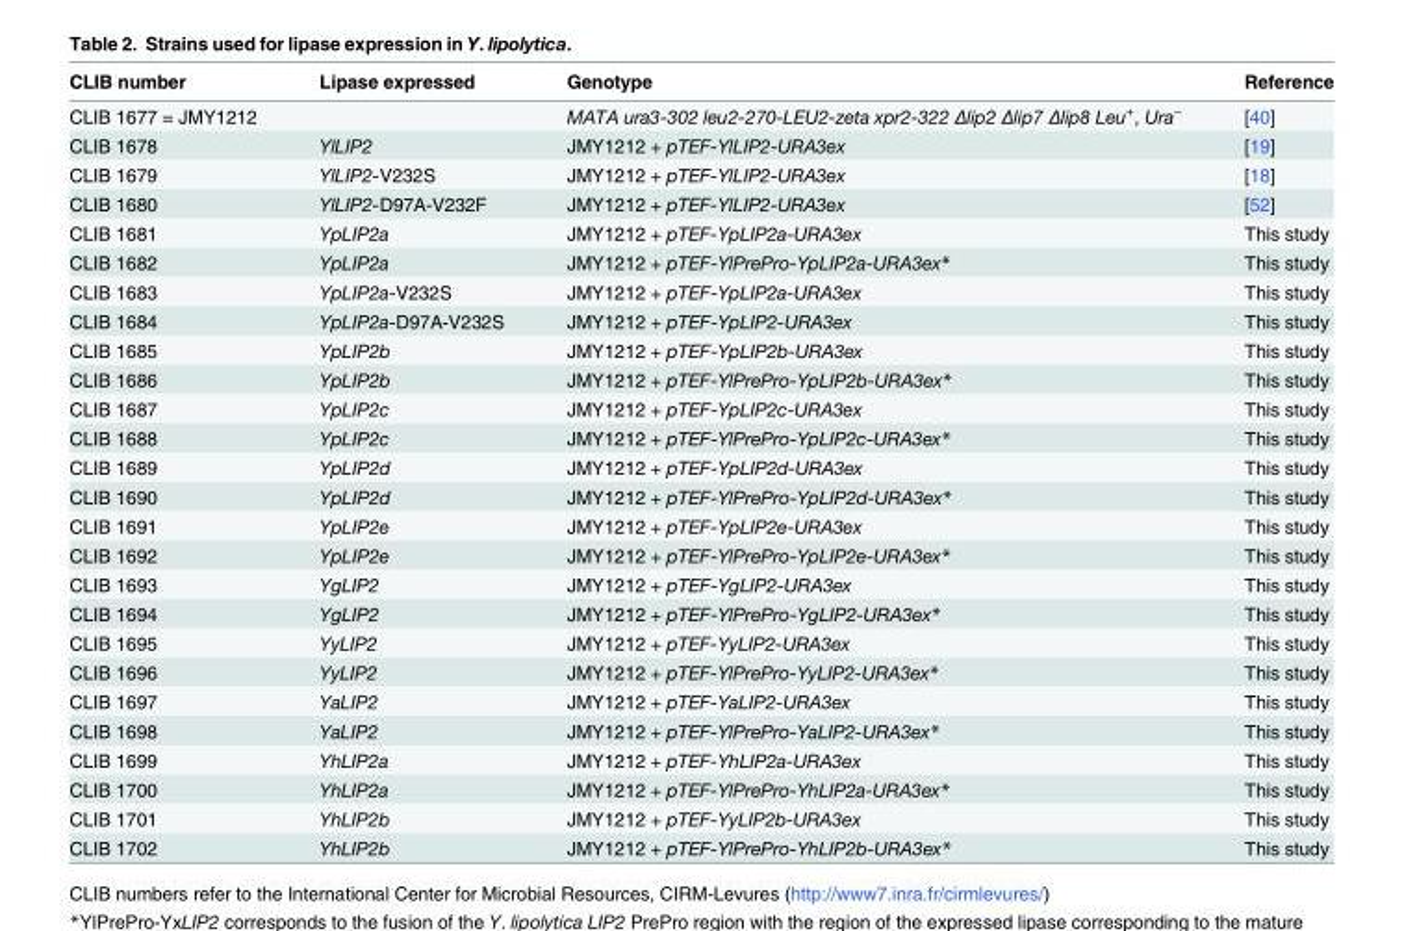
<table><thead><tr><td>CLIB number</td><td>Lipase expressed</td><td>Genotype</td><td>Reference</td></tr></thead><tbody><tr><td>CLIB 1677 = JMY1212</td><td></td><td>MATA ura3-302 leu2-270-LEU2-zeta xpr2-322 Δlip2 Δlip7 Δlip8 Leu<sup>+</sup>, Ura<sup>−</sup></td><td>[40]</td></tr><tr><td>CLIB 1678</td><td>YlLIP2</td><td>JMY1212 + pTEF-YlLIP2-URA3ex</td><td>[19]</td></tr><tr><td>CLIB 1679</td><td>YlLIP2-V232S</td><td>JMY1212 + pTEF-YlLIP2-URA3ex</td><td>[18]</td></tr><tr><td>CLIB 1680</td><td>YlLIP2-D97A-V232F</td><td>JMY1212 + pTEF-YlLIP2-URA3ex</td><td>[52]</td></tr><tr><td>CLIB 1681</td><td>YpLIP2a</td><td>JMY1212 + pTEF-YpLIP2a-URA3ex</td><td>This study</td></tr><tr><td>CLIB 1682</td><td>YpLIP2a</td><td>JMY1212 + pTEF-YlPrePro-YpLIP2a-URA3ex*</td><td>This study</td></tr><tr><td>CLIB 1683</td><td>YpLIP2a-V232S</td><td>JMY1212 + pTEF-YpLIP2a-URA3ex</td><td>This study</td></tr><tr><td>CLIB 1684</td><td>YpLIP2a-D97A-V232S</td><td>JMY1212 + pTEF-YpLIP2-URA3ex</td><td>This study</td></tr><tr><td>CLIB 1685</td><td>YpLIP2b</td><td>JMY1212 + pTEF-YpLIP2b-URA3ex</td><td>This study</td></tr><tr><td>CLIB 1686</td><td>YpLIP2b</td><td>JMY1212 + pTEF-YlPrePro-YpLIP2b-URA3ex*</td><td>This study</td></tr><tr><td>CLIB 1687</td><td>YpLIP2c</td><td>JMY1212 + pTEF-YpLIP2c-URA3ex</td><td>This study</td></tr><tr><td>CLIB 1688</td><td>YpLIP2c</td><td>JMY1212 + pTEF-YlPrePro-YpLIP2c-URA3ex*</td><td>This study</td></tr><tr><td>CLIB 1689</td><td>YpLIP2d</td><td>JMY1212 + pTEF-YpLIP2d-URA3ex</td><td>This study</td></tr><tr><td>CLIB 1690</td><td>YpLIP2d</td><td>JMY1212 + pTEF-YlPrePro-YpLIP2d-URA3ex*</td><td>This study</td></tr><tr><td>CLIB 1691</td><td>YpLIP2e</td><td>JMY1212 + pTEF-YpLIP2e-URA3ex</td><td>This study</td></tr><tr><td>CLIB 1692</td><td>YpLIP2e</td><td>JMY1212 + pTEF-YlPrePro-YpLIP2e-URA3ex*</td><td>This study</td></tr><tr><td>CLIB 1693</td><td>YgLIP2</td><td>JMY1212 + pTEF-YgLIP2-URA3ex</td><td>This study</td></tr><tr><td>CLIB 1694</td><td>YgLIP2</td><td>JMY1212 + pTEF-YlPrePro-YgLIP2-URA3ex*</td><td>This study</td></tr><tr><td>CLIB 1695</td><td>YyLIP2</td><td>JMY1212 + pTEF-YyLIP2-URA3ex</td><td>This study</td></tr><tr><td>CLIB 1696</td><td>YyLIP2</td><td>JMY1212 + pTEF-YlPrePro-YyLIP2-URA3ex*</td><td>This study</td></tr><tr><td>CLIB 1697</td><td>YaLIP2</td><td>JMY1212 + pTEF-YaLIP2-URA3ex</td><td>This study</td></tr><tr><td>CLIB 1698</td><td>YaLIP2</td><td>JMY1212 + pTEF-YlPrePro-YaLIP2-URA3ex*</td><td>This study</td></tr><tr><td>CLIB 1699</td><td>YhLIP2a</td><td>JMY1212 + pTEF-YhLIP2a-URA3ex</td><td>This study</td></tr><tr><td>CLIB 1700</td><td>YhLIP2a</td><td>JMY1212 + pTEF-YlPrePro-YhLIP2a-URA3ex*</td><td>This study</td></tr><tr><td>CLIB 1701</td><td>YhLIP2b</td><td>JMY1212 + pTEF-YyLIP2b-URA3ex</td><td>This study</td></tr><tr><td>CLIB 1702</td><td>YhLIP2b</td><td>JMY1212 + pTEF-YlPrePro-YhLIP2b-URA3ex*</td><td>This study</td></tr></tbody></table>